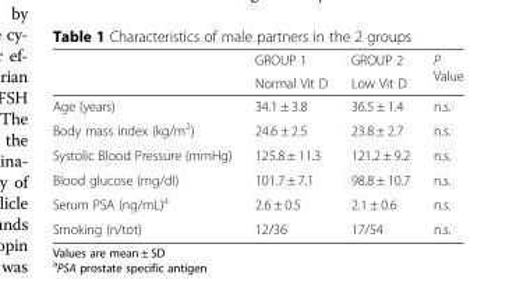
<table><thead><tr><td rowspan="2"></td><td rowspan="2">GROUP 1 Normal Vit D</td><td rowspan="2">GROUP 2 Low Vit D</td><td rowspan="2">P Value</td></tr><tr></tr></thead><tbody><tr><td>Age (years)</td><td>34.1 ± 3.8</td><td>36.5 ± 1.4</td><td>n.s.</td></tr><tr><td>Body mass index (kg/m<sup>2</sup>)</td><td>24.6 ± 2.5</td><td>23.8 ± 2.7</td><td>n.s.</td></tr><tr><td>Systolic Blood Pressure (mmHg)</td><td>125.8 ± 11.3</td><td>121.2 ± 9.2</td><td>n.s.</td></tr><tr><td>Blood glucose (mg/dl)</td><td>101.7 ± 7.1</td><td>98.8 ± 10.7</td><td>n.s.</td></tr><tr><td>Serum PSA (ng/mL)<sup>a</sup></td><td>2.6 ± 0.5</td><td>2.1 ± 0.6</td><td>n.s.</td></tr><tr><td>Smoking (n/tot)</td><td>12/36</td><td>17/54</td><td>n.s.</td></tr></tbody></table>